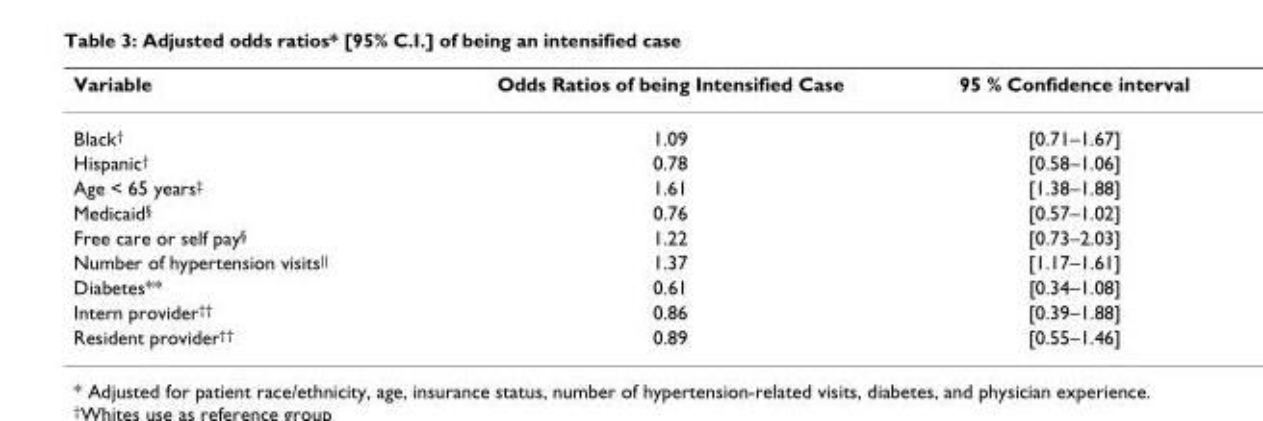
<table><thead><tr><td>Variable</td><td>Odds Ratios of being Intensified Case</td><td>95 % Confidence interval</td></tr></thead><tbody><tr><td>Black<sup>†</sup></td><td>1.09</td><td>[0.71–1.67]</td></tr><tr><td>Hispanic<sup>†</sup></td><td>0.78</td><td>[0.58–1.06]</td></tr><tr><td>Age &lt; 65 years<sup>‡</sup></td><td>1.61</td><td>[1.38–1.88]</td></tr><tr><td>Medicaid<sup>§</sup></td><td>0.76</td><td>[0.57–1.02]</td></tr><tr><td>Free care or self pay<sup>§</sup></td><td>1.22</td><td>[0.73–2.03]</td></tr><tr><td>Number of hypertension visits<sup>||</sup></td><td>1.37</td><td>[1.17–1.61]</td></tr><tr><td>Diabetes**</td><td>0.61</td><td>[0.34–1.08]</td></tr><tr><td>Intern provider<sup>††</sup></td><td>0.86</td><td>[0.39–1.88]</td></tr><tr><td>Resident provider<sup>††</sup></td><td>0.89</td><td>[0.55–1.46]</td></tr></tbody></table>